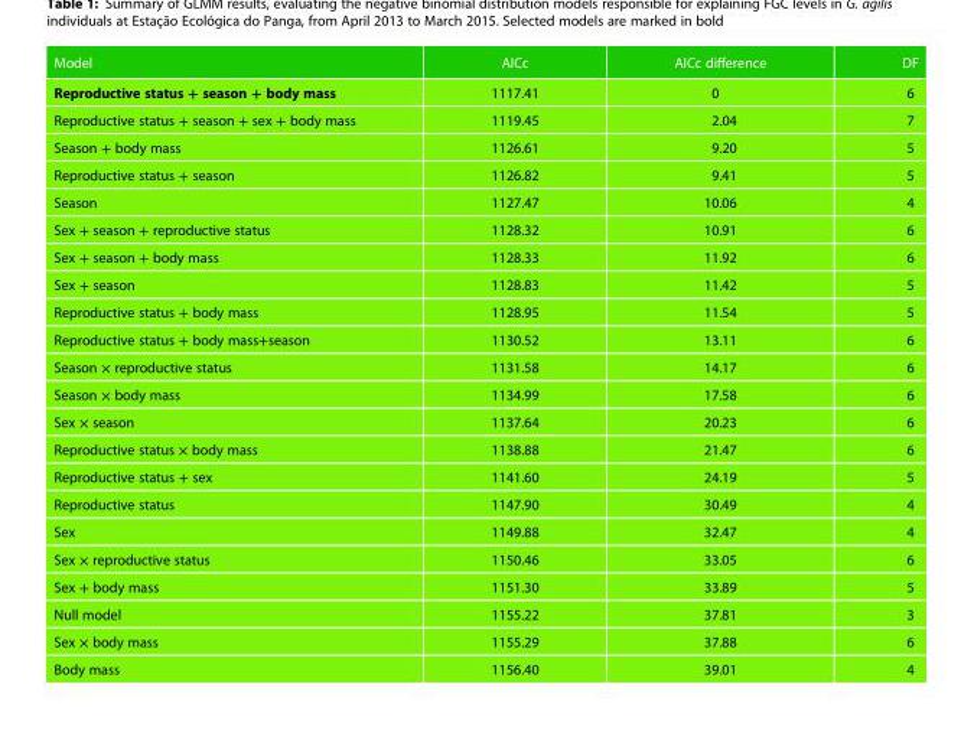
<table><thead><tr><td>Model</td><td>AICc</td><td>AICc difference</td><td>DF</td></tr></thead><tbody><tr><td>Reproductive status + season + body mass</td><td>1117.41</td><td>0</td><td>6</td></tr><tr><td>Reproductive status + season + sex + body mass</td><td>1119.45</td><td>2.04</td><td>7</td></tr><tr><td>Season + body mass</td><td>1126.61</td><td>9.20</td><td>5</td></tr><tr><td>Reproductive status + season</td><td>1126.82</td><td>9.41</td><td>5</td></tr><tr><td>Season</td><td>1127.47</td><td>10.06</td><td>4</td></tr><tr><td>Sex + season + reproductive status</td><td>1128.32</td><td>10.91</td><td>6</td></tr><tr><td>Sex + season + body mass</td><td>1128.33</td><td>11.92</td><td>6</td></tr><tr><td>Sex + season</td><td>1128.83</td><td>11.42</td><td>5</td></tr><tr><td>Reproductive status + body mass</td><td>1128.95</td><td>11.54</td><td>5</td></tr><tr><td>Reproductive status + body mass+season</td><td>1130.52</td><td>13.11</td><td>6</td></tr><tr><td>Season × reproductive status</td><td>1131.58</td><td>14.17</td><td>6</td></tr><tr><td>Season × body mass</td><td>1134.99</td><td>17.58</td><td>6</td></tr><tr><td>Sex × season</td><td>1137.64</td><td>20.23</td><td>6</td></tr><tr><td>Reproductive status × body mass</td><td>1138.88</td><td>21.47</td><td>6</td></tr><tr><td>Reproductive status + sex</td><td>1141.60</td><td>24.19</td><td>5</td></tr><tr><td>Reproductive status</td><td>1147.90</td><td>30.49</td><td>4</td></tr><tr><td>Sex</td><td>1149.88</td><td>32.47</td><td>4</td></tr><tr><td>Sex × reproductive status</td><td>1150.46</td><td>33.05</td><td>6</td></tr><tr><td>Sex + body mass</td><td>1151.30</td><td>33.89</td><td>5</td></tr><tr><td>Null model</td><td>1155.22</td><td>37.81</td><td>3</td></tr><tr><td>Sex × body mass</td><td>1155.29</td><td>37.88</td><td>6</td></tr><tr><td>Body mass</td><td>1156.40</td><td>39.01</td><td>4</td></tr></tbody></table>